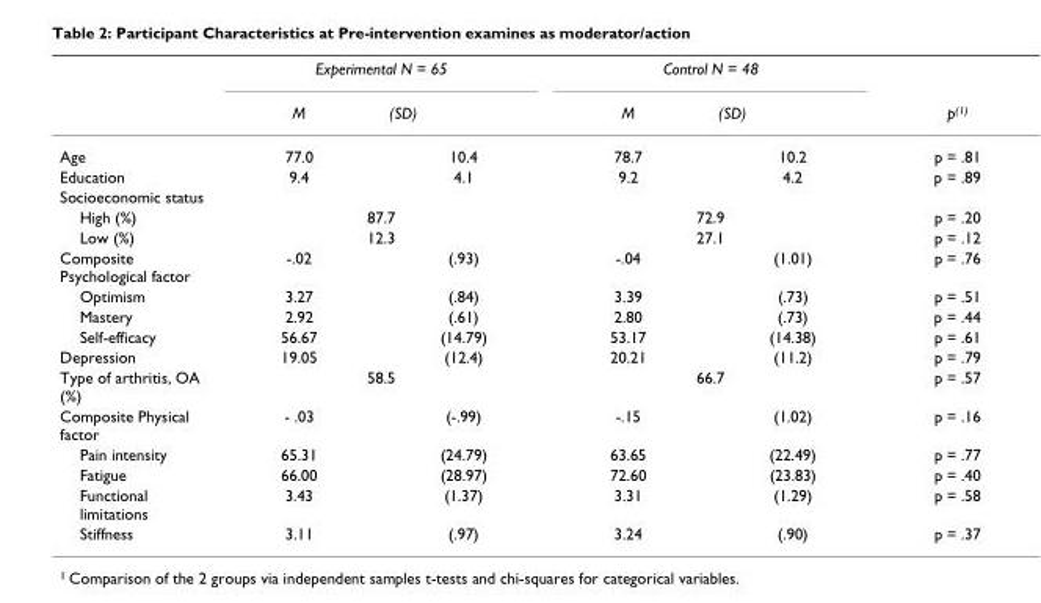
<table><thead><tr><td rowspan="2"></td><td colspan="2">Experimental N = 65</td><td colspan="2">Control N = 48</td><td rowspan="2">p<sup>(1)</sup></td></tr><tr><td>M</td><td>(SD)</td><td>M</td><td>(SD)</td></tr></thead><tbody><tr><td>Age</td><td>77.0</td><td>10.4</td><td>78.7</td><td>10.2</td><td>p = .81</td></tr><tr><td>Education</td><td>9.4</td><td>4.1</td><td>9.2</td><td>4.2</td><td>p = .89</td></tr><tr><td colspan="6">Socioeconomic status</td></tr><tr><td>High (%)</td><td colspan="2">87.7</td><td colspan="2">72.9</td><td>p = .20</td></tr><tr><td>Low (%)</td><td colspan="2">12.3</td><td colspan="2">27.1</td><td>p = .12</td></tr><tr><td>Composite Psychological factor</td><td>-.02</td><td>(.93)</td><td>-.04</td><td>(1.01)</td><td>p = .76</td></tr><tr><td>Optimism</td><td>3.27</td><td>(.84)</td><td>3.39</td><td>(.73)</td><td>p = .51</td></tr><tr><td>Mastery</td><td>2.92</td><td>(.61)</td><td>2.80</td><td>(.73)</td><td>p = .44</td></tr><tr><td>Self-efficacy</td><td>56.67</td><td>(14.79)</td><td>53.17</td><td>(14.38)</td><td>p = .61</td></tr><tr><td>Depression</td><td>19.05</td><td>(12.4)</td><td>20.21</td><td>(11.2)</td><td>p = .79</td></tr><tr><td>Type of arthritis, OA (%)</td><td colspan="2">58.5</td><td colspan="2">66.7</td><td>p = .57</td></tr><tr><td>Composite Physical factor</td><td>- .03</td><td>(-.99)</td><td>-.15</td><td>(1.02)</td><td>p = .16</td></tr><tr><td>Pain intensity</td><td>65.31</td><td>(24.79)</td><td>63.65</td><td>(22.49)</td><td>p = .77</td></tr><tr><td>Fatigue</td><td>66.00</td><td>(28.97)</td><td>72.60</td><td>(23.83)</td><td>p = .40</td></tr><tr><td>Functional limitations</td><td>3.43</td><td>(1.37)</td><td>3.31</td><td>(1.29)</td><td>p = .58</td></tr><tr><td>Stiffness</td><td>3.11</td><td>(.97)</td><td>3.24</td><td>(.90)</td><td>p = .37</td></tr></tbody></table>